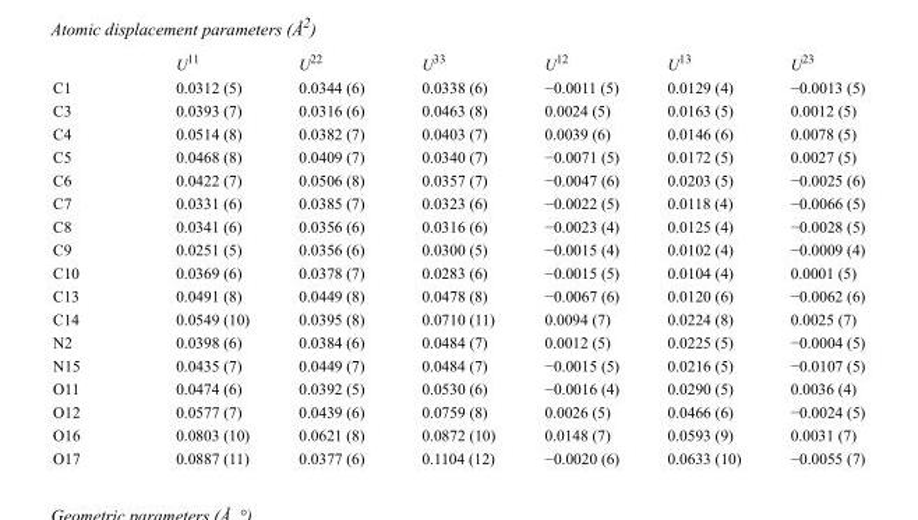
<table><thead><tr><td></td><td>U<sup>11</sup></td><td>U<sup>22</sup></td><td>U<sup>33</sup></td><td>U<sup>12</sup></td><td>U<sup>13</sup></td><td>U<sup>23</sup></td></tr></thead><tbody><tr><td>C1</td><td>0.0312 (5)</td><td>0.0344 (6)</td><td>0.0338 (6)</td><td>−0.0011 (5)</td><td>0.0129 (4)</td><td>−0.0013 (5)</td></tr><tr><td>C3</td><td>0.0393 (7)</td><td>0.0316 (6)</td><td>0.0463 (8)</td><td>0.0024 (5)</td><td>0.0163 (5)</td><td>0.0012 (5)</td></tr><tr><td>C4</td><td>0.0514 (8)</td><td>0.0382 (7)</td><td>0.0403 (7)</td><td>0.0039 (6)</td><td>0.0146 (6)</td><td>0.0078 (5)</td></tr><tr><td>C5</td><td>0.0468 (8)</td><td>0.0409 (7)</td><td>0.0340 (7)</td><td>−0.0071 (5)</td><td>0.0172 (5)</td><td>0.0027 (5)</td></tr><tr><td>C6</td><td>0.0422 (7)</td><td>0.0506 (8)</td><td>0.0357 (7)</td><td>−0.0047 (6)</td><td>0.0203 (5)</td><td>−0.0025 (6)</td></tr><tr><td>C7</td><td>0.0331 (6)</td><td>0.0385 (7)</td><td>0.0323 (6)</td><td>−0.0022 (5)</td><td>0.0118 (4)</td><td>−0.0066 (5)</td></tr><tr><td>C8</td><td>0.0341 (6)</td><td>0.0356 (6)</td><td>0.0316 (6)</td><td>−0.0023 (4)</td><td>0.0125 (4)</td><td>−0.0028 (5)</td></tr><tr><td>C9</td><td>0.0251 (5)</td><td>0.0356 (6)</td><td>0.0300 (5)</td><td>−0.0015 (4)</td><td>0.0102 (4)</td><td>−0.0009 (4)</td></tr><tr><td>C10</td><td>0.0369 (6)</td><td>0.0378 (7)</td><td>0.0283 (6)</td><td>−0.0015 (5)</td><td>0.0104 (4)</td><td>0.0001 (5)</td></tr><tr><td>C13</td><td>0.0491 (8)</td><td>0.0449 (8)</td><td>0.0478 (8)</td><td>−0.0067 (6)</td><td>0.0120 (6)</td><td>−0.0062 (6)</td></tr><tr><td>C14</td><td>0.0549 (10)</td><td>0.0395 (8)</td><td>0.0710 (11)</td><td>0.0094 (7)</td><td>0.0224 (8)</td><td>0.0025 (7)</td></tr><tr><td>N2</td><td>0.0398 (6)</td><td>0.0384 (6)</td><td>0.0484 (7)</td><td>0.0012 (5)</td><td>0.0225 (5)</td><td>−0.0004 (5)</td></tr><tr><td>N15</td><td>0.0435 (7)</td><td>0.0449 (7)</td><td>0.0484 (7)</td><td>−0.0015 (5)</td><td>0.0216 (5)</td><td>−0.0107 (5)</td></tr><tr><td>O11</td><td>0.0474 (6)</td><td>0.0392 (5)</td><td>0.0530 (6)</td><td>−0.0016 (4)</td><td>0.0290 (5)</td><td>0.0036 (4)</td></tr><tr><td>O12</td><td>0.0577 (7)</td><td>0.0439 (6)</td><td>0.0759 (8)</td><td>0.0026 (5)</td><td>0.0466 (6)</td><td>−0.0024 (5)</td></tr><tr><td>O16</td><td>0.0803 (10)</td><td>0.0621 (8)</td><td>0.0872 (10)</td><td>0.0148 (7)</td><td>0.0593 (9)</td><td>0.0031 (7)</td></tr><tr><td>O17</td><td>0.0887 (11)</td><td>0.0377 (6)</td><td>0.1104 (12)</td><td>−0.0020 (6)</td><td>0.0633 (10)</td><td>−0.0055 (7)</td></tr></tbody></table>